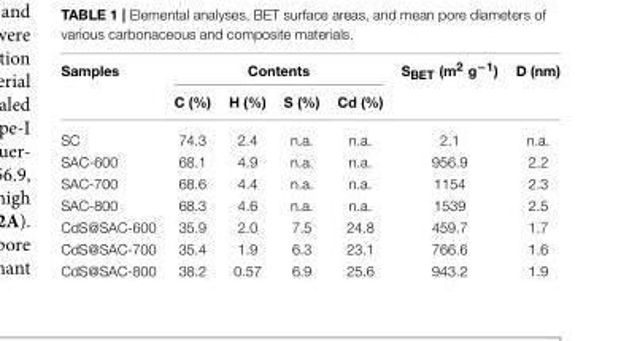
<table><thead><tr><td rowspan="2">Samples</td><td colspan="4">Contents</td><td rowspan="2">S<sub>BET</sub> (m<sup>2</sup> g<sup>−1</sup>)</td><td rowspan="2">D (nm)</td></tr><tr><td>C (%)</td><td>H (%)</td><td>S (%)</td><td>Cd (%)</td></tr></thead><tbody><tr><td>SC</td><td>74.3</td><td>2.4</td><td>n.a.</td><td>n.a.</td><td>2.1</td><td>n.a.</td></tr><tr><td>SAC-600</td><td>68.1</td><td>4.9</td><td>n.a.</td><td>n.a.</td><td>956.9</td><td>2.2</td></tr><tr><td>SAC-700</td><td>68.6</td><td>4.4</td><td>n.a.</td><td>n.a.</td><td>1154</td><td>2.3</td></tr><tr><td>SAC-800</td><td>68.3</td><td>4.6</td><td>n.a.</td><td>n.a.</td><td>1539</td><td>2.5</td></tr><tr><td>CdS@SAC-600</td><td>35.9</td><td>2.0</td><td>7.5</td><td>24.8</td><td>459.7</td><td>1.7</td></tr><tr><td>CdS@SAC-700</td><td>35.4</td><td>1.9</td><td>6.3</td><td>23.1</td><td>766.6</td><td>1.6</td></tr><tr><td>CdS@SAC-800</td><td>38.2</td><td>0.57</td><td>6.9</td><td>25.6</td><td>943.2</td><td>1.9</td></tr></tbody></table>